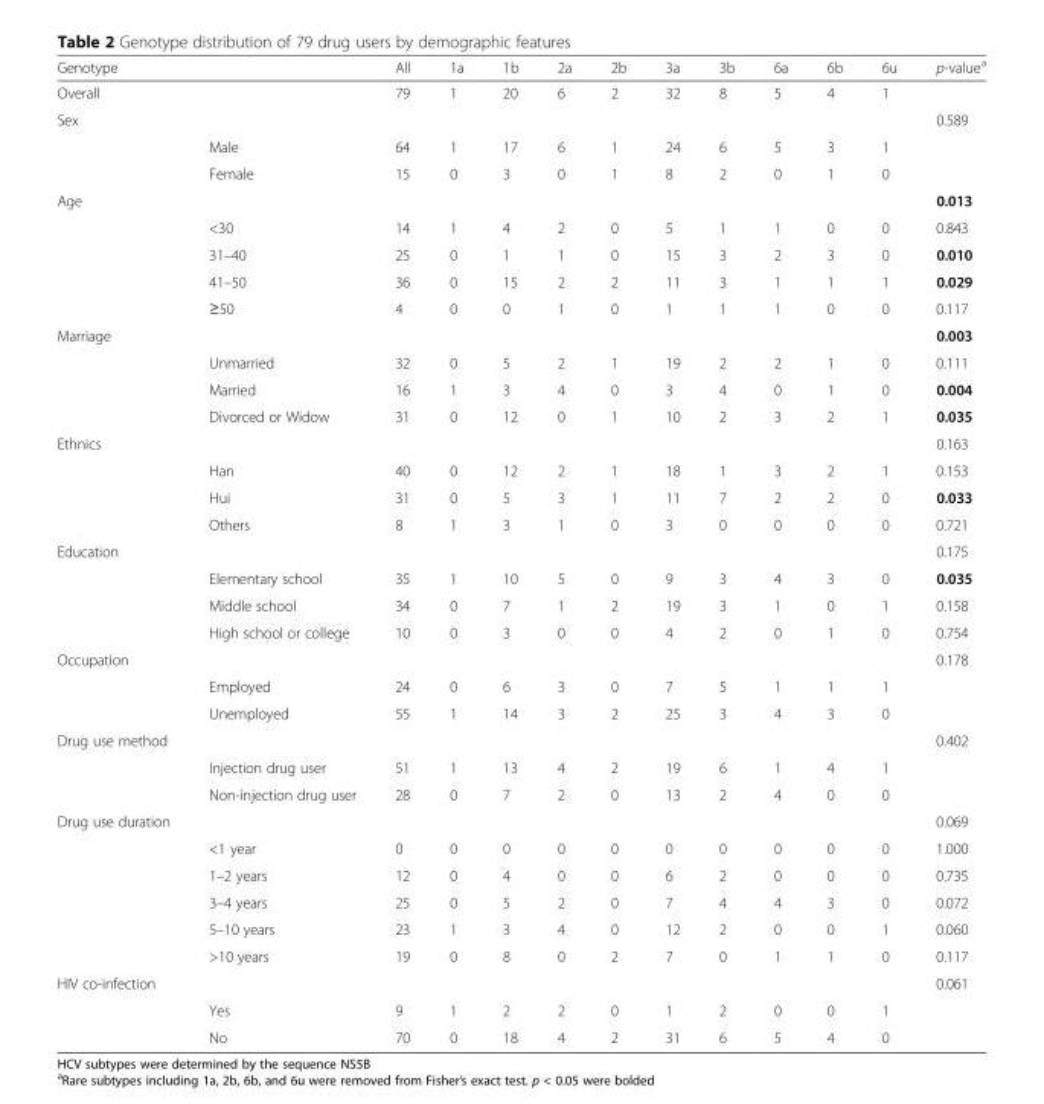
<table><thead><tr><td>Genotype</td><td></td><td>All</td><td>1a</td><td>1b</td><td>2a</td><td>2b</td><td>3a</td><td>3b</td><td>6a</td><td>6b</td><td>6u</td><td>p-value<sup>a</sup></td></tr></thead><tbody><tr><td>Overall</td><td></td><td>79</td><td>1</td><td>20</td><td>6</td><td>2</td><td>32</td><td>8</td><td>5</td><td>4</td><td>1</td><td></td></tr><tr><td rowspan="3">Sex</td><td></td><td></td><td></td><td></td><td></td><td></td><td></td><td></td><td></td><td></td><td></td><td>0.589</td></tr><tr><td>Male</td><td>64</td><td>1</td><td>17</td><td>6</td><td>1</td><td>24</td><td>6</td><td>5</td><td>3</td><td>1</td><td></td></tr><tr><td>Female</td><td>15</td><td>0</td><td>3</td><td>0</td><td>1</td><td>8</td><td>2</td><td>0</td><td>1</td><td>0</td><td></td></tr><tr><td rowspan="5">Age</td><td></td><td></td><td></td><td></td><td></td><td></td><td></td><td></td><td></td><td></td><td></td><td>0.013</td></tr><tr><td>&lt;30</td><td>14</td><td>1</td><td>4</td><td>2</td><td>0</td><td>5</td><td>1</td><td>1</td><td>0</td><td>0</td><td>0.843</td></tr><tr><td>31–40</td><td>25</td><td>0</td><td>1</td><td>1</td><td>0</td><td>15</td><td>3</td><td>2</td><td>3</td><td>0</td><td>0.010</td></tr><tr><td>41–50</td><td>36</td><td>0</td><td>15</td><td>2</td><td>2</td><td>11</td><td>3</td><td>1</td><td>1</td><td>1</td><td>0.029</td></tr><tr><td>≥50</td><td>4</td><td>0</td><td>0</td><td>1</td><td>0</td><td>1</td><td>1</td><td>1</td><td>0</td><td>0</td><td>0.117</td></tr><tr><td rowspan="4">Marriage</td><td></td><td></td><td></td><td></td><td></td><td></td><td></td><td></td><td></td><td></td><td></td><td>0.003</td></tr><tr><td>Unmarried</td><td>32</td><td>0</td><td>5</td><td>2</td><td>1</td><td>19</td><td>2</td><td>2</td><td>1</td><td>0</td><td>0.111</td></tr><tr><td>Married</td><td>16</td><td>1</td><td>3</td><td>4</td><td>0</td><td>3</td><td>4</td><td>0</td><td>1</td><td>0</td><td>0.004</td></tr><tr><td>Divorced or Widow</td><td>31</td><td>0</td><td>12</td><td>0</td><td>1</td><td>10</td><td>2</td><td>3</td><td>2</td><td>1</td><td>0.035</td></tr><tr><td rowspan="4">Ethnics</td><td></td><td></td><td></td><td></td><td></td><td></td><td></td><td></td><td></td><td></td><td></td><td>0.163</td></tr><tr><td>Han</td><td>40</td><td>0</td><td>12</td><td>2</td><td>1</td><td>18</td><td>1</td><td>3</td><td>2</td><td>1</td><td>0.153</td></tr><tr><td>Hui</td><td>31</td><td>0</td><td>5</td><td>3</td><td>1</td><td>11</td><td>7</td><td>2</td><td>2</td><td>0</td><td>0.033</td></tr><tr><td>Others</td><td>8</td><td>1</td><td>3</td><td>1</td><td>0</td><td>3</td><td>0</td><td>0</td><td>0</td><td>0</td><td>0.721</td></tr><tr><td rowspan="4">Education</td><td></td><td></td><td></td><td></td><td></td><td></td><td></td><td></td><td></td><td></td><td></td><td>0.175</td></tr><tr><td>Elementary school</td><td>35</td><td>1</td><td>10</td><td>5</td><td>0</td><td>9</td><td>3</td><td>4</td><td>3</td><td>0</td><td>0.035</td></tr><tr><td>Middle school</td><td>34</td><td>0</td><td>7</td><td>1</td><td>2</td><td>19</td><td>3</td><td>1</td><td>0</td><td>1</td><td>0.158</td></tr><tr><td>High school or college</td><td>10</td><td>0</td><td>3</td><td>0</td><td>0</td><td>4</td><td>2</td><td>0</td><td>1</td><td>0</td><td>0.754</td></tr><tr><td rowspan="3">Occupation</td><td></td><td></td><td></td><td></td><td></td><td></td><td></td><td></td><td></td><td></td><td></td><td>0.178</td></tr><tr><td>Employed</td><td>24</td><td>0</td><td>6</td><td>3</td><td>0</td><td>7</td><td>5</td><td>1</td><td>1</td><td>1</td><td></td></tr><tr><td>Unemployed</td><td>55</td><td>1</td><td>14</td><td>3</td><td>2</td><td>25</td><td>3</td><td>4</td><td>3</td><td>0</td><td></td></tr><tr><td rowspan="3">Drug use method</td><td></td><td></td><td></td><td></td><td></td><td></td><td></td><td></td><td></td><td></td><td></td><td>0.402</td></tr><tr><td>Injection drug user</td><td>51</td><td>1</td><td>13</td><td>4</td><td>2</td><td>19</td><td>6</td><td>1</td><td>4</td><td>1</td><td></td></tr><tr><td>Non-injection drug user</td><td>28</td><td>0</td><td>7</td><td>2</td><td>0</td><td>13</td><td>2</td><td>4</td><td>0</td><td>0</td><td></td></tr><tr><td rowspan="6">Drug use duration</td><td></td><td></td><td></td><td></td><td></td><td></td><td></td><td></td><td></td><td></td><td></td><td>0.069</td></tr><tr><td>&lt;1 year</td><td>0</td><td>0</td><td>0</td><td>0</td><td>0</td><td>0</td><td>0</td><td>0</td><td>0</td><td>0</td><td>1.000</td></tr><tr><td>1–2 years</td><td>12</td><td>0</td><td>4</td><td>0</td><td>0</td><td>6</td><td>2</td><td>0</td><td>0</td><td>0</td><td>0.735</td></tr><tr><td>3–4 years</td><td>25</td><td>0</td><td>5</td><td>2</td><td>0</td><td>7</td><td>4</td><td>4</td><td>3</td><td>0</td><td>0.072</td></tr><tr><td>5–10 years</td><td>23</td><td>1</td><td>3</td><td>4</td><td>0</td><td>12</td><td>2</td><td>0</td><td>0</td><td>1</td><td>0.060</td></tr><tr><td>&gt;10 years</td><td>19</td><td>0</td><td>8</td><td>0</td><td>2</td><td>7</td><td>0</td><td>1</td><td>1</td><td>0</td><td>0.117</td></tr><tr><td rowspan="3">HIV co-infection</td><td></td><td></td><td></td><td></td><td></td><td></td><td></td><td></td><td></td><td></td><td></td><td>0.061</td></tr><tr><td>Yes</td><td>9</td><td>1</td><td>2</td><td>2</td><td>0</td><td>1</td><td>2</td><td>0</td><td>0</td><td>1</td><td></td></tr><tr><td>No</td><td>70</td><td>0</td><td>18</td><td>4</td><td>2</td><td>31</td><td>6</td><td>5</td><td>4</td><td>0</td><td></td></tr></tbody></table>